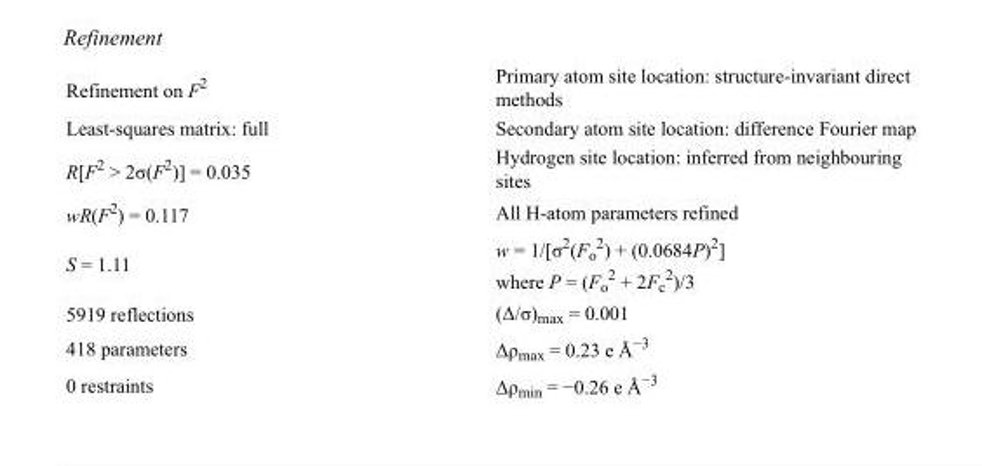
<table><tbody><tr><td>Refinement on F<sup>2</sup></td><td>Primary atom site location: structure-invariant direct methods</td></tr><tr><td>Least-squares matrix: full</td><td>Secondary atom site location: difference Fourier map</td></tr><tr><td>R[F<sup>2</sup> &gt; 2σ(F<sup>2</sup>)] = 0.035</td><td>Hydrogen site location: inferred from neighbouring sites</td></tr><tr><td>wR(F<sup>2</sup>) = 0.117</td><td>All H-atom parameters refined</td></tr><tr><td>S = 1.11</td><td>w = 1/[σ<sup>2</sup>(F<sub>o</sub> <sup>2</sup>) + (0.0684P)<sup>2</sup>] where P = (F<sub>o</sub> <sup>2</sup> + 2F<sub>c</sub> <sup>2</sup>)/3</td></tr><tr><td>5919 reflections</td><td>(Δ/σ)<sub>max</sub> = 0.001</td></tr><tr><td>418 parameters</td><td>Δρ<sub>max</sub> = 0.23 e Å<sup>−3</sup></td></tr><tr><td>0 restraints</td><td>Δρ<sub>min</sub> = −0.26 e Å<sup>−3</sup></td></tr></tbody></table>